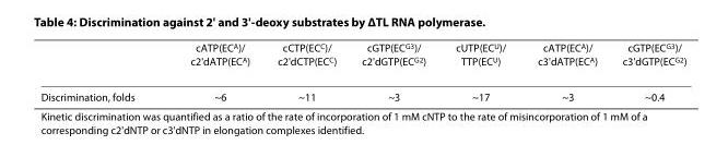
<table><thead><tr><td></td><td>cATP(EC<sup>A</sup>)/ c2&#x27;dATP(EC<sup>A</sup>)</td><td>cCTP(EC<sup>C</sup>)/ c2&#x27;dCTP(EC<sup>C</sup>)</td><td>cGTP(EC<sup>G3</sup>)/ c2&#x27;dGTP(EC<sup>G2</sup>)</td><td>cUTP(EC<sup>U</sup>)/ TTP(EC<sup>U</sup>)</td><td>cATP(EC<sup>A</sup>)/ c3&#x27;dATP(EC<sup>A</sup>)</td><td>cGTP(EC<sup>G3</sup>)/ c3&#x27;dGTP(EC<sup>G2</sup>)</td></tr></thead><tbody><tr><td>Discrimination, folds</td><td>~6</td><td>~11</td><td>~3</td><td>~17</td><td>~3</td><td>~0.4</td></tr></tbody></table>